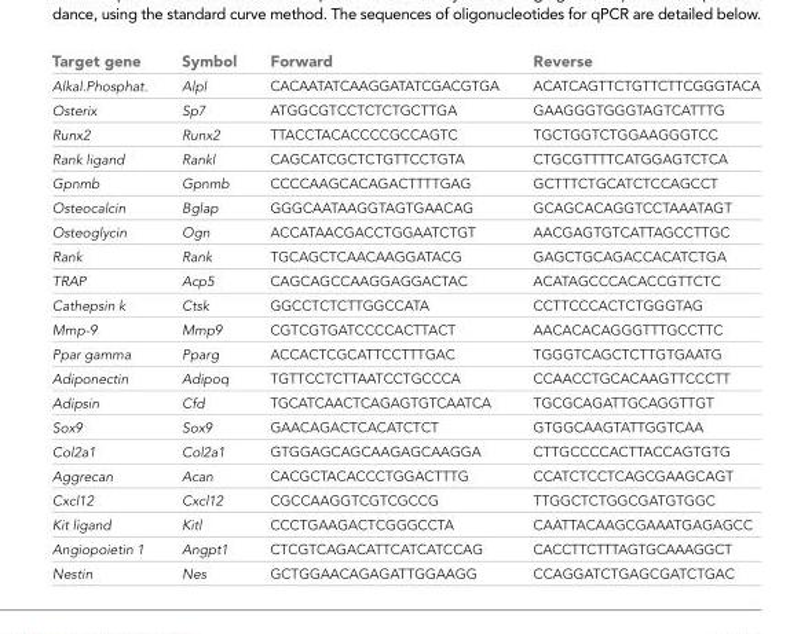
<table><thead><tr><td>Target gene</td><td>Symbol</td><td>Forward</td><td>Reverse</td></tr></thead><tbody><tr><td>Alkal.Phosphat.</td><td>Alpl</td><td>CACAATATCAAGGATATCGACGTGA</td><td>ACATCAGTTCTGTTCTTCGGGTACA</td></tr><tr><td>Osterix</td><td>Sp7</td><td>ATGGCGTCCTCTCTGCTTGA</td><td>GAAGGGTGGGTAGTCATTTG</td></tr><tr><td>Runx2</td><td>Runx2</td><td>TTACCTACACCCCGCCAGTC</td><td>TGCTGGTCTGGAAGGGTCC</td></tr><tr><td>Rank ligand</td><td>Rankl</td><td>CAGCATCGCTCTGTTCCTGTA</td><td>CTGCGTTTTCATGGAGTCTCA</td></tr><tr><td>Gpnmb</td><td>Gpnmb</td><td>CCCCAAGCACAGACTTTTGAG</td><td>GCTTTCTGCATCTCCAGCCT</td></tr><tr><td>Osteocalcin</td><td>Bglap</td><td>GGGCAATAAGGTAGTGAACAG</td><td>GCAGCACAGGTCCTAAATAGT</td></tr><tr><td>Osteoglycin</td><td>Ogn</td><td>ACCATAACGACCTGGAATCTGT</td><td>AACGAGTGTCATTAGCCTTGC</td></tr><tr><td>Rank</td><td>Rank</td><td>TGCAGCTCAACAAGGATACG</td><td>GAGCTGCAGACCACATCTGA</td></tr><tr><td>TRAP</td><td>Acp5</td><td>CAGCAGCCAAGGAGGACTAC</td><td>ACATAGCCCACACCGTTCTC</td></tr><tr><td>Cathepsin k</td><td>Ctsk</td><td>GGCCTCTCTTGGCCATA</td><td>CCTTCCCACTCTGGGTAG</td></tr><tr><td>Mmp-9</td><td>Mmp9</td><td>CGTCGTGATCCCCACTTACT</td><td>AACACACAGGGTTTGCCTTC</td></tr><tr><td>Ppar gamma</td><td>Pparg</td><td>ACCACTCGCATTCCTTTGAC</td><td>TGGGTCAGCTCTTGTGAATG</td></tr><tr><td>Adiponectin</td><td>Adipoq</td><td>TGTTCCTCTTAATCCTGCCCA</td><td>CCAACCTGCACAAGTTCCCTT</td></tr><tr><td>Adipsin</td><td>Cfd</td><td>TGCATCAACTCAGAGTGTCAATCA</td><td>TGCGCAGATTGCAGGTTGT</td></tr><tr><td>Sox9</td><td>Sox9</td><td>GAACAGACTCACATCTCT</td><td>GTGGCAAGTATTGGTCAA</td></tr><tr><td>Col2a1</td><td>Col2a1</td><td>GTGGAGCAGCAAGAGCAAGGA</td><td>CTTGCCCCACTTACCAGTGTG</td></tr><tr><td>Aggrecan</td><td>Acan</td><td>CACGCTACACCCTGGACTTTG</td><td>CCATCTCCTCAGCGAAGCAGT</td></tr><tr><td>Cxcl12</td><td>Cxcl12</td><td>CGCCAAGGTCGTCGCCG</td><td>TTGGCTCTGGCGATGTGGC</td></tr><tr><td>Kit ligand</td><td>Kitl</td><td>CCCTGAAGACTCGGGCCTA</td><td>CAATTACAAGCGAAATGAGAGCC</td></tr><tr><td>Angiopoietin 1</td><td>Angpt1</td><td>CTCGTCAGACATTCATCATCCAG</td><td>CACCTTCTTTAGTGCAAAGGCT</td></tr><tr><td>Nestin</td><td>Nes</td><td>GCTGGAACAGAGATTGGAAGG</td><td>CCAGGATCTGAGCGATCTGAC</td></tr></tbody></table>